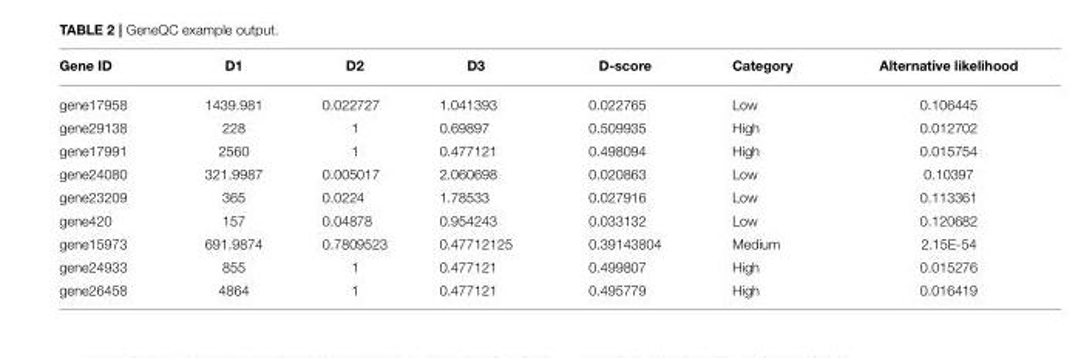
<table><thead><tr><td>Gene ID</td><td>D1</td><td>D2</td><td>D3</td><td>D-score</td><td>Category</td><td>Alternative likelihood</td></tr></thead><tbody><tr><td>gene17958</td><td>1439.981</td><td>0.022727</td><td>1.041393</td><td>0.022765</td><td>Low</td><td>0.106445</td></tr><tr><td>gene29138</td><td>228</td><td>1</td><td>0.69897</td><td>0.509935</td><td>High</td><td>0.012702</td></tr><tr><td>gene17991</td><td>2560</td><td>1</td><td>0.477121</td><td>0.498094</td><td>High</td><td>0.015754</td></tr><tr><td>gene24080</td><td>321.9987</td><td>0.005017</td><td>2.060698</td><td>0.020863</td><td>Low</td><td>0.10397</td></tr><tr><td>gene23209</td><td>365</td><td>0.0224</td><td>1.78533</td><td>0.027916</td><td>Low</td><td>0.113361</td></tr><tr><td>gene420</td><td>157</td><td>0.04878</td><td>0.954243</td><td>0.033132</td><td>Low</td><td>0.120682</td></tr><tr><td>gene15973</td><td>691.9874</td><td>0.7809523</td><td>0.47712125</td><td>0.39143804</td><td>Medium</td><td>2.15E-54</td></tr><tr><td>gene24933</td><td>855</td><td>1</td><td>0.477121</td><td>0.499807</td><td>High</td><td>0.015276</td></tr><tr><td>gene26458</td><td>4864</td><td>1</td><td>0.477121</td><td>0.495779</td><td>High</td><td>0.016419</td></tr></tbody></table>